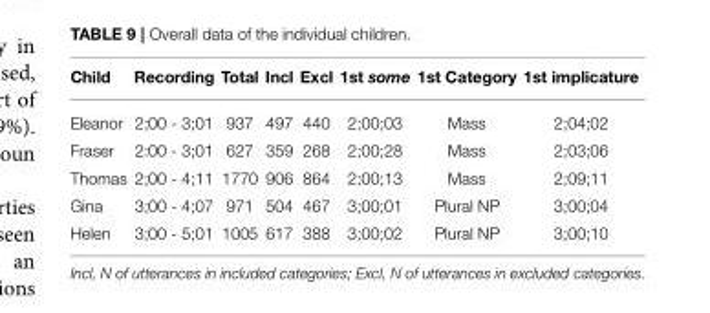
<table><thead><tr><td>Child</td><td>Recording</td><td>Total</td><td>Incl</td><td>Excl</td><td>1st some</td><td>1st Category</td><td>1st implicature</td></tr></thead><tbody><tr><td>Eleanor</td><td>2;00 - 3;01</td><td>937</td><td>497</td><td>440</td><td>2;00;03</td><td>Mass</td><td>2;04;02</td></tr><tr><td>Fraser</td><td>2:00 - 3;01</td><td>627</td><td>359</td><td>268</td><td>2;00;28</td><td>Mass</td><td>2;03;06</td></tr><tr><td>Thomas</td><td>2;00 - 4;11</td><td>1770</td><td>906</td><td>864</td><td>2;00;13</td><td>Mass</td><td>2;09;11</td></tr><tr><td>Gina</td><td>3;00 - 4;07</td><td>971</td><td>504</td><td>467</td><td>3;00;01</td><td>Plural NP</td><td>3;00;04</td></tr><tr><td>Helen</td><td>3;00 - 5;01</td><td>1005</td><td>617</td><td>388</td><td>3;00;02</td><td>Plural NP</td><td>3;00;10</td></tr></tbody></table>